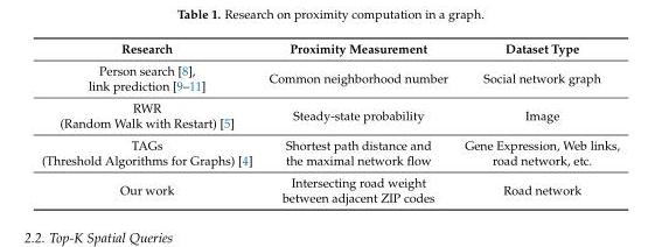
<table><thead><tr><td>Research</td><td>Proximity Measurement</td><td>Dataset Type</td></tr></thead><tbody><tr><td>Person search [8], link prediction [9–11]</td><td>Common neighborhood number</td><td>Social network graph</td></tr><tr><td>RWR (Random Walk with Restart) [5]</td><td>Steady-state probability</td><td>Image</td></tr><tr><td>TAGs (Threshold Algorithms for Graphs) [4]</td><td>Shortest path distance and the maximal network flow</td><td>Gene Expression, Web links, road network, etc.</td></tr><tr><td>Our work</td><td>Intersecting road weight between adjacent ZIP codes</td><td>Road network</td></tr></tbody></table>